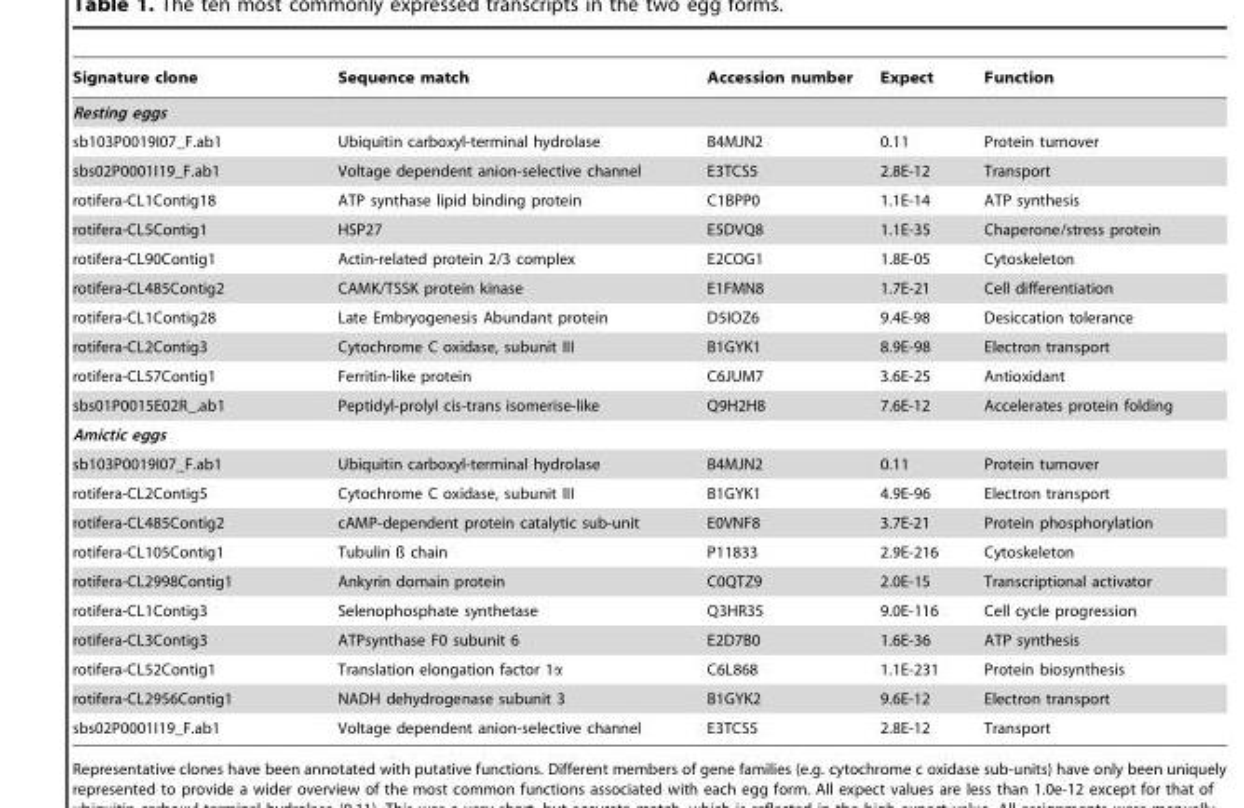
<table><thead><tr><td>Signature clone</td><td>Sequence match</td><td>Accession number</td><td>Expect</td><td>Function</td></tr></thead><tbody><tr><td colspan="5">Resting eggs</td></tr><tr><td>sb103P0019I07_F.ab1</td><td>Ubiquitin carboxyl-terminal hydrolase</td><td>B4MJN2</td><td>0.11</td><td>Protein turnover</td></tr><tr><td>sbs02P0001I19_F.ab1</td><td>Voltage dependent anion-selective channel</td><td>E3TCS5</td><td>2.8E-12</td><td>Transport</td></tr><tr><td>rotifera-CL1Contig18</td><td>ATP synthase lipid binding protein</td><td>C1BPP0</td><td>1.1E-14</td><td>ATP synthesis</td></tr><tr><td>rotifera-CL5Contig1</td><td>HSP27</td><td>E5DVQ8</td><td>1.1E-35</td><td>Chaperone/stress protein</td></tr><tr><td>rotifera-CL90Contig1</td><td>Actin-related protein 2/3 complex</td><td>E2COG1</td><td>1.8E-05</td><td>Cytoskeleton</td></tr><tr><td>rotifera-CL485Contig2</td><td>CAMK/TSSK protein kinase</td><td>E1FMN8</td><td>1.7E-21</td><td>Cell differentiation</td></tr><tr><td>rotifera-CL1Contig28</td><td>Late Embryogenesis Abundant protein</td><td>D5IOZ6</td><td>9.4E-98</td><td>Desiccation tolerance</td></tr><tr><td>rotifera-CL2Contig3</td><td>Cytochrome C oxidase, subunit III</td><td>B1GYK1</td><td>8.9E-98</td><td>Electron transport</td></tr><tr><td>rotifera-CL57Contig1</td><td>Ferritin-like protein</td><td>C6JUM7</td><td>3.6E-25</td><td>Antioxidant</td></tr><tr><td>sbs01P0015E02R_.ab1</td><td>Peptidyl-prolyl cis-trans isomerise-like</td><td>Q9H2H8</td><td>7.6E-12</td><td>Accelerates protein folding</td></tr><tr><td colspan="5">Amictic eggs</td></tr><tr><td>sb103P0019I07_F.ab1</td><td>Ubiquitin carboxyl-terminal hydrolase</td><td>B4MJN2</td><td>0.11</td><td>Protein turnover</td></tr><tr><td>rotifera-CL2Contig5</td><td>Cytochrome C oxidase, subunit III</td><td>B1GYK1</td><td>4.9E-96</td><td>Electron transport</td></tr><tr><td>rotifera-CL485Contig2</td><td>cAMP-dependent protein catalytic sub-unit</td><td>E0VNF8</td><td>3.7E-21</td><td>Protein phosphorylation</td></tr><tr><td>rotifera-CL105Contig1</td><td>Tubulin ß chain</td><td>P11833</td><td>2.9E-216</td><td>Cytoskeleton</td></tr><tr><td>rotifera-CL2998Contig1</td><td>Ankyrin domain protein</td><td>C0QTZ9</td><td>2.0E-15</td><td>Transcriptional activator</td></tr><tr><td>rotifera-CL1Contig3</td><td>Selenophosphate synthetase</td><td>Q3HR35</td><td>9.0E-116</td><td>Cell cycle progression</td></tr><tr><td>rotifera-CL3Contig3</td><td>ATPsynthase F0 subunit 6</td><td>E2D7B0</td><td>1.6E-36</td><td>ATP synthesis</td></tr><tr><td>rotifera-CL52Contig1</td><td>Translation elongation factor 1α</td><td>C6L868</td><td>1.1E-231</td><td>Protein biosynthesis</td></tr><tr><td>rotifera-CL2956Contig1</td><td>NADH dehydrogenase subunit 3</td><td>B1GYK2</td><td>9.6E-12</td><td>Electron transport</td></tr><tr><td>sbs02P0001I19_F.ab1</td><td>Voltage dependent anion-selective channel</td><td>E3TCS5</td><td>2.8E-12</td><td>Transport</td></tr></tbody></table>